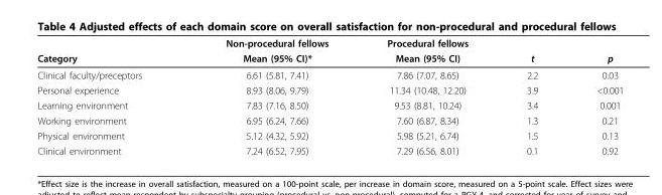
<table><thead><tr><td rowspan="2">Category</td><td rowspan="2">Non-procedural fellows Mean (95% CI)*</td><td rowspan="2">Procedural fellows Mean (95% CI)</td><td rowspan="2">t</td><td rowspan="2">p</td></tr><tr></tr></thead><tbody><tr><td>Clinical faculty/preceptors</td><td>6.61 (5.81, 7.41)</td><td>7.86 (7.07, 8.65)</td><td>2.2</td><td>0.03</td></tr><tr><td>Personal experience</td><td>8.93 (8.06, 9.79)</td><td>11.34 (10.48, 12.20)</td><td>3.9</td><td>&lt;0.001</td></tr><tr><td>Learning environment</td><td>7.83 (7.16, 8.50)</td><td>9.53 (8.81, 10.24)</td><td>3.4</td><td>0.001</td></tr><tr><td>Working environment</td><td>6.95 (6.24, 7.66)</td><td>7.60 (6.87, 8.34)</td><td>1.3</td><td>0.21</td></tr><tr><td>Physical environment</td><td>5.12 (4.32, 5.92)</td><td>5.98 (5.21, 6.74)</td><td>1.5</td><td>0.13</td></tr><tr><td>Clinical environment</td><td>7.24 (6.52, 7.95)</td><td>7.29 (6.56, 8.01)</td><td>0.1</td><td>0.92</td></tr></tbody></table>